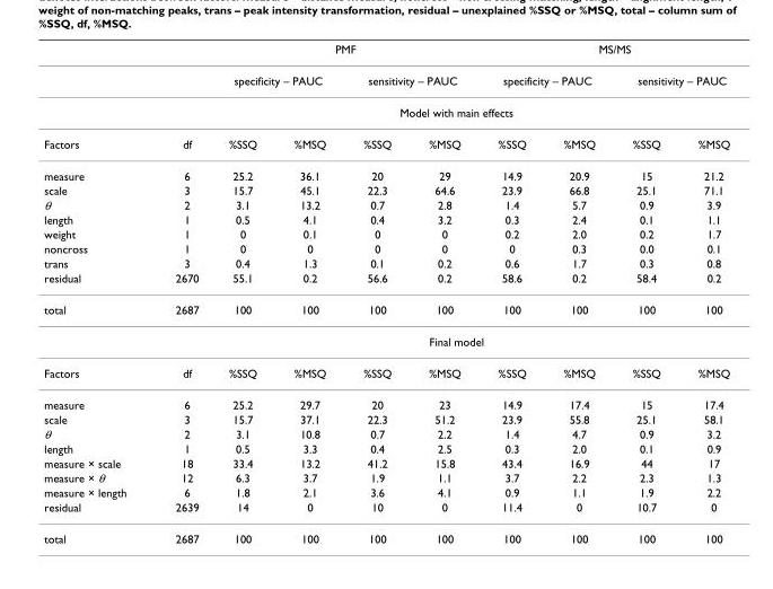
<table><thead><tr><td rowspan="4">Factors</td><td rowspan="2"></td><td colspan="4">PMF</td><td colspan="4">MS/MS</td></tr><tr><td colspan="2">specificity – PAUC</td><td colspan="2">sensitivity – PAUC</td><td colspan="2">specificity – PAUC</td><td colspan="2">sensitivity – PAUC</td></tr><tr><td colspan="9">Model with main effects</td></tr><tr><td>df</td><td>%SSQ</td><td>%MSQ</td><td>%SSQ</td><td>%MSQ</td><td>%SSQ</td><td>%MSQ</td><td>%SSQ</td><td>%MSQ</td></tr></thead><tbody><tr><td>measure</td><td>6</td><td>25.2</td><td>36.1</td><td>20</td><td>29</td><td>14.9</td><td>20.9</td><td>15</td><td>21.2</td></tr><tr><td>scale</td><td>3</td><td>15.7</td><td>45.1</td><td>22.3</td><td>64.6</td><td>23.9</td><td>66.8</td><td>25.1</td><td>71.1</td></tr><tr><td>θ</td><td>2</td><td>3.1</td><td>13.2</td><td>0.7</td><td>2.8</td><td>1.4</td><td>5.7</td><td>0.9</td><td>3.9</td></tr><tr><td>length</td><td>1</td><td>0.5</td><td>4.1</td><td>0.4</td><td>3.2</td><td>0.3</td><td>2.4</td><td>0.1</td><td>1.1</td></tr><tr><td>weight</td><td>1</td><td>0</td><td>0.1</td><td>0</td><td>0</td><td>0.2</td><td>2.0</td><td>0.2</td><td>1.7</td></tr><tr><td>noncross</td><td>1</td><td>0</td><td>0</td><td>0</td><td>0</td><td>0</td><td>0.3</td><td>0.0</td><td>0.1</td></tr><tr><td>trans</td><td>3</td><td>0.4</td><td>1.3</td><td>0.1</td><td>0.2</td><td>0.6</td><td>1.7</td><td>0.3</td><td>0.8</td></tr><tr><td>residual</td><td>2670</td><td>55.1</td><td>0.2</td><td>56.6</td><td>0.2</td><td>58.6</td><td>0.2</td><td>58.4</td><td>0.2</td></tr><tr><td rowspan="2">total</td><td>2687</td><td>100</td><td>100</td><td>100</td><td>100</td><td>100</td><td>100</td><td>100</td><td>100</td></tr><tr><td colspan="9">Final model</td></tr><tr><td>Factors</td><td>df</td><td>%SSQ</td><td>%MSQ</td><td>%SSQ</td><td>%MSQ</td><td>%SSQ</td><td>%MSQ</td><td>%SSQ</td><td>%MSQ</td></tr><tr><td>measure</td><td>6</td><td>25.2</td><td>29.7</td><td>20</td><td>23</td><td>14.9</td><td>17.4</td><td>15</td><td>17.4</td></tr><tr><td>scale</td><td>3</td><td>15.7</td><td>37.1</td><td>22.3</td><td>51.2</td><td>23.9</td><td>55.8</td><td>25.1</td><td>58.1</td></tr><tr><td>θ</td><td>2</td><td>3.1</td><td>10.8</td><td>0.7</td><td>2.2</td><td>1.4</td><td>4.7</td><td>0.9</td><td>3.2</td></tr><tr><td>length</td><td>1</td><td>0.5</td><td>3.3</td><td>0.4</td><td>2.5</td><td>0.3</td><td>2.0</td><td>0.1</td><td>0.9</td></tr><tr><td>measure × scale</td><td>18</td><td>33.4</td><td>13.2</td><td>41.2</td><td>15.8</td><td>43.4</td><td>16.9</td><td>44</td><td>17</td></tr><tr><td>measure × θ</td><td>12</td><td>6.3</td><td>3.7</td><td>1.9</td><td>1.1</td><td>3.7</td><td>2.2</td><td>2.3</td><td>1.3</td></tr><tr><td>measure × length</td><td>6</td><td>1.8</td><td>2.1</td><td>3.6</td><td>4.1</td><td>0.9</td><td>1.1</td><td>1.9</td><td>2.2</td></tr><tr><td>residual</td><td>2639</td><td>14</td><td>0</td><td>10</td><td>0</td><td>11.4</td><td>0</td><td>10.7</td><td>0</td></tr><tr><td>total</td><td>2687</td><td>100</td><td>100</td><td>100</td><td>100</td><td>100</td><td>100</td><td>100</td><td>100</td></tr></tbody></table>